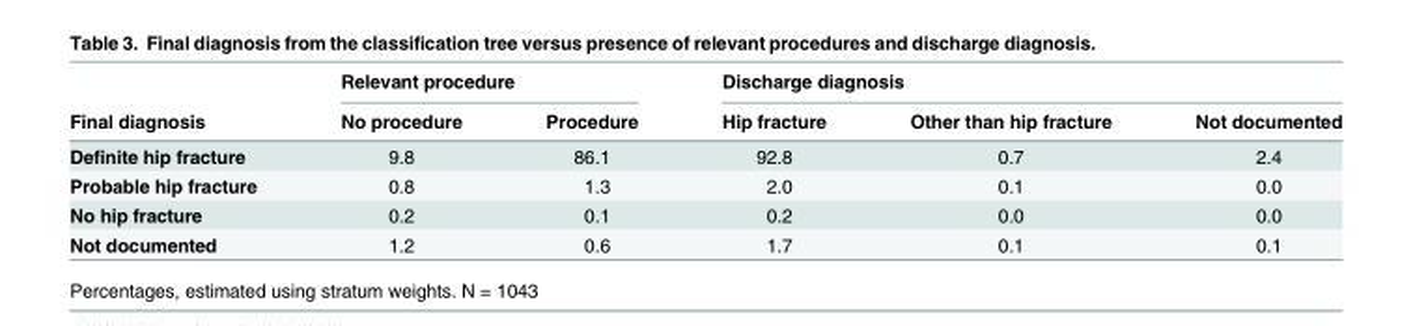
<table><thead><tr><td rowspan="2">Final diagnosis</td><td colspan="2">Relevant procedure</td><td colspan="3">Discharge diagnosis</td></tr><tr><td>No procedure</td><td>Procedure</td><td>Hip fracture</td><td>Other than hip fracture</td><td>Not documented</td></tr></thead><tbody><tr><td>Definite hip fracture</td><td>9.8</td><td>86.1</td><td>92.8</td><td>0.7</td><td>2.4</td></tr><tr><td>Probable hip fracture</td><td>0.8</td><td>1.3</td><td>2.0</td><td>0.1</td><td>0.0</td></tr><tr><td>No hip fracture</td><td>0.2</td><td>0.1</td><td>0.2</td><td>0.0</td><td>0.0</td></tr><tr><td>Not documented</td><td>1.2</td><td>0.6</td><td>1.7</td><td>0.1</td><td>0.1</td></tr></tbody></table>